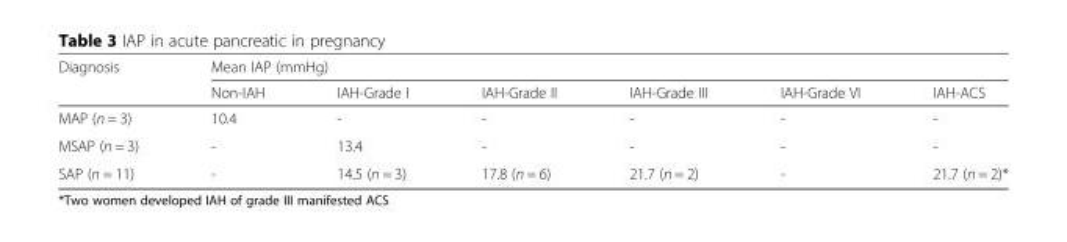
<table><thead><tr><td rowspan="2">Diagnosis</td><td colspan="6">Mean IAP (mmHg)</td></tr><tr><td>Non-IAH</td><td>IAH-Grade I</td><td>IAH-Grade II</td><td>IAH-Grade III</td><td>IAH-Grade VI</td><td>IAH-ACS</td></tr></thead><tbody><tr><td>MAP (n = 3)</td><td>10.4</td><td>-</td><td>-</td><td>-</td><td>-</td><td>-</td></tr><tr><td>MSAP (n = 3)</td><td>-</td><td>13.4</td><td>-</td><td>-</td><td>-</td><td>-</td></tr><tr><td>SAP (n = 11)</td><td>-</td><td>14.5 (n = 3)</td><td>17.8 (n = 6)</td><td>21.7 (n = 2)</td><td>-</td><td>21.7 (n = 2)*</td></tr></tbody></table>